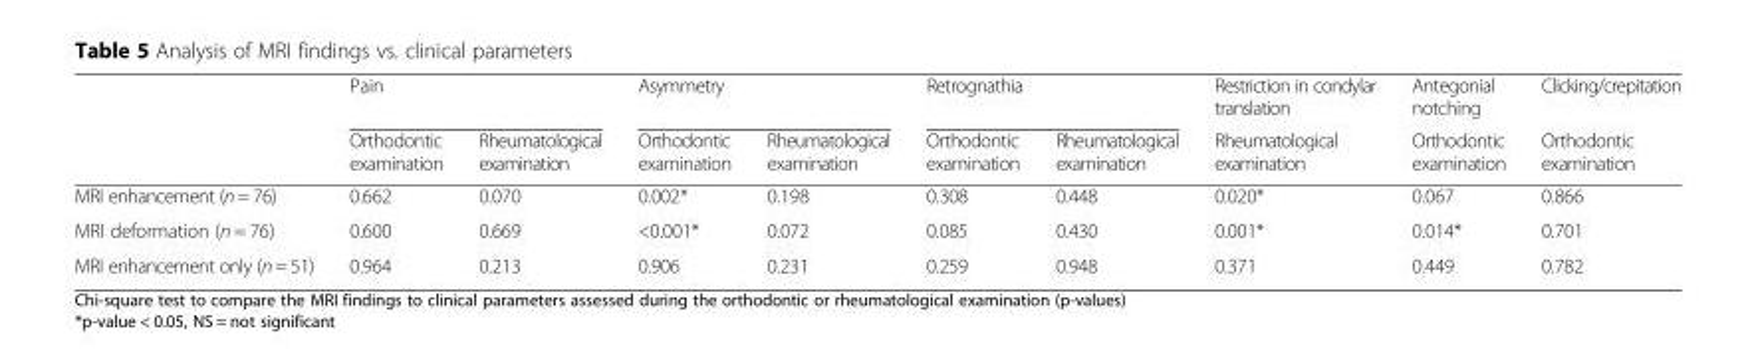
<table><thead><tr><td rowspan="2"></td><td colspan="2">Pain</td><td colspan="2">Asymmetry</td><td colspan="2">Retrognathia</td><td rowspan="2">Restriction in condylar translation Rheumatological examination</td><td rowspan="2">Antegonial notching Orthodontic examination</td><td rowspan="2">Clicking/crepitation Orthodontic examination</td></tr><tr><td>Orthodontic examination</td><td>Rheumatological examination</td><td>Orthodontic examination</td><td>Rheumatological examination</td><td>Orthodontic examination</td><td>Rheumatological examination</td></tr></thead><tbody><tr><td>MRI enhancement (n = 76)</td><td>0.662</td><td>0.070</td><td>0.002*</td><td>0.198</td><td>0.308</td><td>0.448</td><td>0.020*</td><td>0.067</td><td>0.866</td></tr><tr><td>MRI deformation (n = 76)</td><td>0.600</td><td>0.669</td><td>&lt;0.001*</td><td>0.072</td><td>0.085</td><td>0.430</td><td>0.001*</td><td>0.014*</td><td>0.701</td></tr><tr><td>MRI enhancement only (n = 51)</td><td>0.964</td><td>0.213</td><td>0.906</td><td>0.231</td><td>0.259</td><td>0.948</td><td>0.371</td><td>0.449</td><td>0.782</td></tr></tbody></table>